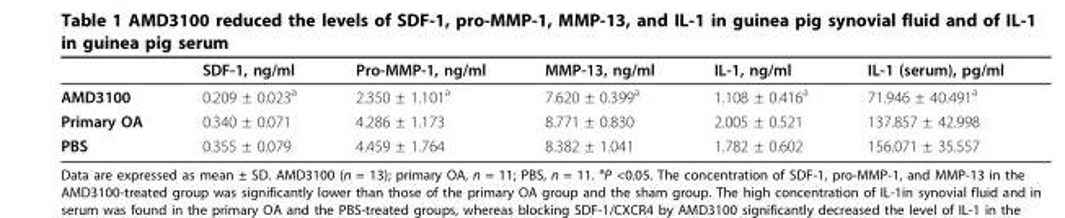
<table><thead><tr><td></td><td>SDF-1, ng/ml</td><td>Pro-MMP-1, ng/ml</td><td>MMP-13, ng/ml</td><td>IL-1, ng/ml</td><td>IL-1 (serum), pg/ml</td></tr></thead><tbody><tr><td>AMD3100</td><td>0.209 ± 0.023<sup>a</sup></td><td>2.350 ± 1.101<sup>a</sup></td><td>7.620 ± 0.399<sup>a</sup></td><td>1.108 ± 0.416<sup>a</sup></td><td>71.946 ± 40.491<sup>a</sup></td></tr><tr><td>Primary OA</td><td>0.340 ± 0.071</td><td>4.286 ± 1.173</td><td>8.771 ± 0.830</td><td>2.005 ± 0.521</td><td>137.857 ± 42.998</td></tr><tr><td>PBS</td><td>0.355 ± 0.079</td><td>4.459 ± 1.764</td><td>8.382 ± 1.041</td><td>1.782 ± 0.602</td><td>156.071 ± 35.557</td></tr></tbody></table>